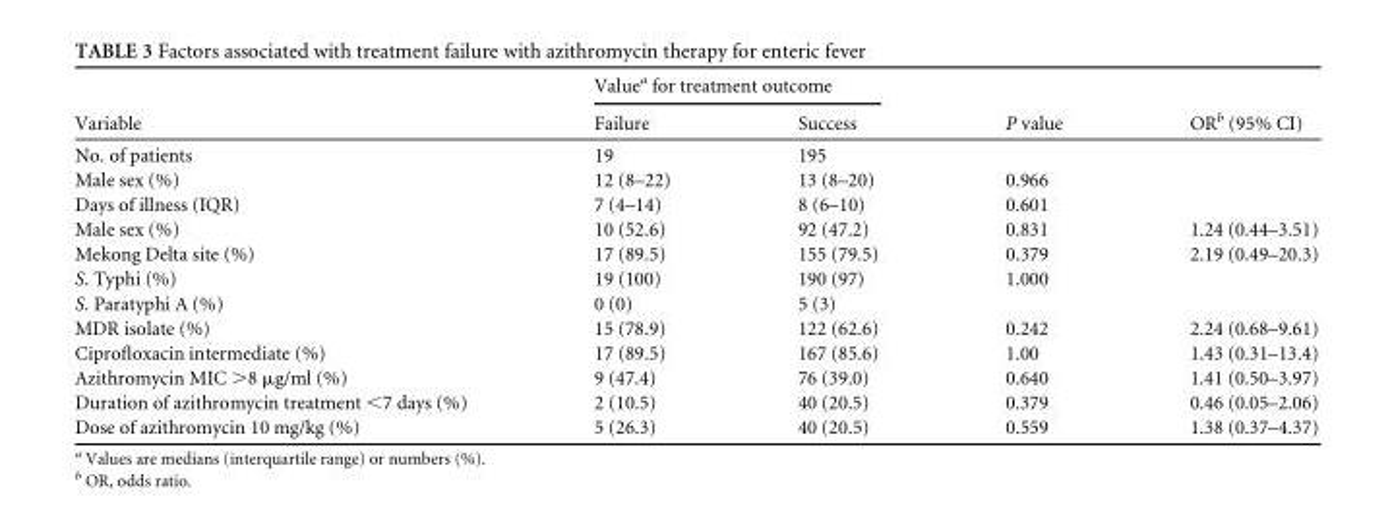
<table><thead><tr><td rowspan="2">Variable</td><td colspan="2">Value<sup>a</sup> for treatment outcome</td><td rowspan="2">P value</td><td rowspan="2">OR<sup>b</sup> (95% CI)</td></tr><tr><td>Failure</td><td>Success</td></tr></thead><tbody><tr><td>No. of patients</td><td>19</td><td>195</td><td></td><td></td></tr><tr><td>Male sex (%)</td><td>12 (8–22)</td><td>13 (8–20)</td><td>0.966</td><td></td></tr><tr><td>Days of illness (IQR)</td><td>7 (4–14)</td><td>8 (6–10)</td><td>0.601</td><td></td></tr><tr><td>Male sex (%)</td><td>10 (52.6)</td><td>92 (47.2)</td><td>0.831</td><td>1.24 (0.44–3.51)</td></tr><tr><td>Mekong Delta site (%)</td><td>17 (89.5)</td><td>155 (79.5)</td><td>0.379</td><td>2.19 (0.49–20.3)</td></tr><tr><td>S. Typhi (%)</td><td>19 (100)</td><td>190 (97)</td><td>1.000</td><td></td></tr><tr><td>S. Paratyphi A (%)</td><td>0 (0)</td><td>5 (3)</td><td></td><td></td></tr><tr><td>MDR isolate (%)</td><td>15 (78.9)</td><td>122 (62.6)</td><td>0.242</td><td>2.24 (0.68–9.61)</td></tr><tr><td>Ciprofloxacin intermediate (%)</td><td>17 (89.5)</td><td>167 (85.6)</td><td>1.00</td><td>1.43 (0.31–13.4)</td></tr><tr><td>Azithromycin MIC &gt;8 μg/ml (%)</td><td>9 (47.4)</td><td>76 (39.0)</td><td>0.640</td><td>1.41 (0.50–3.97)</td></tr><tr><td>Duration of azithromycin treatment &lt;7 days (%)</td><td>2 (10.5)</td><td>40 (20.5)</td><td>0.379</td><td>0.46 (0.05–2.06)</td></tr><tr><td>Dose of azithromycin 10 mg/kg (%)</td><td>5 (26.3)</td><td>40 (20.5)</td><td>0.559</td><td>1.38 (0.37–4.37)</td></tr></tbody></table>